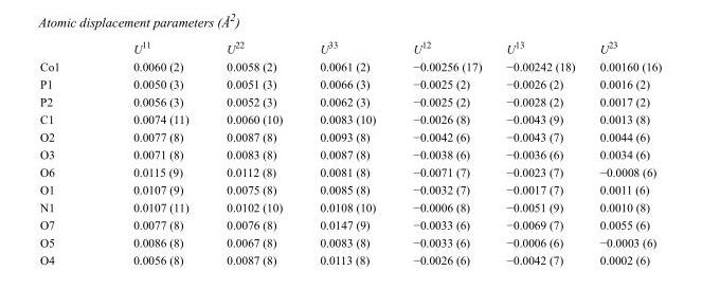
<table><thead><tr><td></td><td>U<sup>11</sup></td><td>U<sup>22</sup></td><td>U<sup>33</sup></td><td>U<sup>12</sup></td><td>U<sup>13</sup></td><td>U<sup>23</sup></td></tr></thead><tbody><tr><td>Co1</td><td>0.0060 (2)</td><td>0.0058 (2)</td><td>0.0061 (2)</td><td>−0.00256 (17)</td><td>−0.00242 (18)</td><td>0.00160 (16)</td></tr><tr><td>P1</td><td>0.0050 (3)</td><td>0.0051 (3)</td><td>0.0066 (3)</td><td>−0.0025 (2)</td><td>−0.0026 (2)</td><td>0.0016 (2)</td></tr><tr><td>P2</td><td>0.0056 (3)</td><td>0.0052 (3)</td><td>0.0062 (3)</td><td>−0.0025 (2)</td><td>−0.0028 (2)</td><td>0.0017 (2)</td></tr><tr><td>C1</td><td>0.0074 (11)</td><td>0.0060 (10)</td><td>0.0083 (10)</td><td>−0.0026 (8)</td><td>−0.0043 (9)</td><td>0.0013 (8)</td></tr><tr><td>O2</td><td>0.0077 (8)</td><td>0.0087 (8)</td><td>0.0093 (8)</td><td>−0.0042 (6)</td><td>−0.0043 (7)</td><td>0.0044 (6)</td></tr><tr><td>O3</td><td>0.0071 (8)</td><td>0.0083 (8)</td><td>0.0087 (8)</td><td>−0.0038 (6)</td><td>−0.0036 (6)</td><td>0.0034 (6)</td></tr><tr><td>O6</td><td>0.0115 (9)</td><td>0.0112 (8)</td><td>0.0081 (8)</td><td>−0.0071 (7)</td><td>−0.0023 (7)</td><td>−0.0008 (6)</td></tr><tr><td>O1</td><td>0.0107 (9)</td><td>0.0075 (8)</td><td>0.0085 (8)</td><td>−0.0032 (7)</td><td>−0.0017 (7)</td><td>0.0011 (6)</td></tr><tr><td>N1</td><td>0.0107 (11)</td><td>0.0102 (10)</td><td>0.0108 (10)</td><td>−0.0006 (8)</td><td>−0.0051 (9)</td><td>0.0010 (8)</td></tr><tr><td>O7</td><td>0.0077 (8)</td><td>0.0076 (8)</td><td>0.0147 (9)</td><td>−0.0033 (6)</td><td>−0.0069 (7)</td><td>0.0055 (6)</td></tr><tr><td>O5</td><td>0.0086 (8)</td><td>0.0067 (8)</td><td>0.0083 (8)</td><td>−0.0033 (6)</td><td>−0.0006 (6)</td><td>−0.0003 (6)</td></tr><tr><td>O4</td><td>0.0056 (8)</td><td>0.0087 (8)</td><td>0.0113 (8)</td><td>−0.0026 (6)</td><td>−0.0042 (7)</td><td>0.0002 (6)</td></tr></tbody></table>